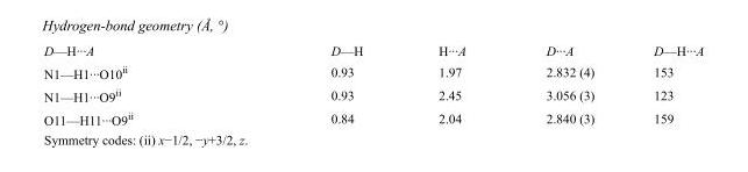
<table><tbody><tr><td>D—H···A</td><td>D—H</td><td>H···A</td><td>D···A</td><td>D—H···A</td></tr><tr><td>N1—H1···O10<sup>ii</sup></td><td>0.93</td><td>1.97</td><td>2.832 (4)</td><td>153</td></tr><tr><td>N1—H1···O9<sup>ii</sup></td><td>0.93</td><td>2.45</td><td>3.056 (3)</td><td>123</td></tr><tr><td>O11—H11···O9<sup>ii</sup></td><td>0.84</td><td>2.04</td><td>2.840 (3)</td><td>159</td></tr></tbody></table>